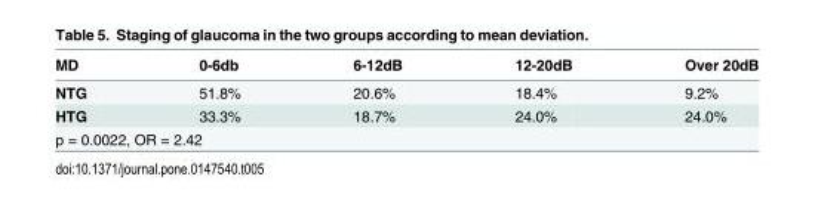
<table><thead><tr><td>MD</td><td>0-6db</td><td>6-12dB</td><td>12-20dB</td><td>Over 20dB</td></tr></thead><tbody><tr><td>NTG</td><td>51.8%</td><td>20.6%</td><td>18.4%</td><td>9.2%</td></tr><tr><td>HTG</td><td>33.3%</td><td>18.7%</td><td>24.0%</td><td>24.0%</td></tr><tr><td colspan="5">p = 0.0022, OR = 2.42</td></tr></tbody></table>